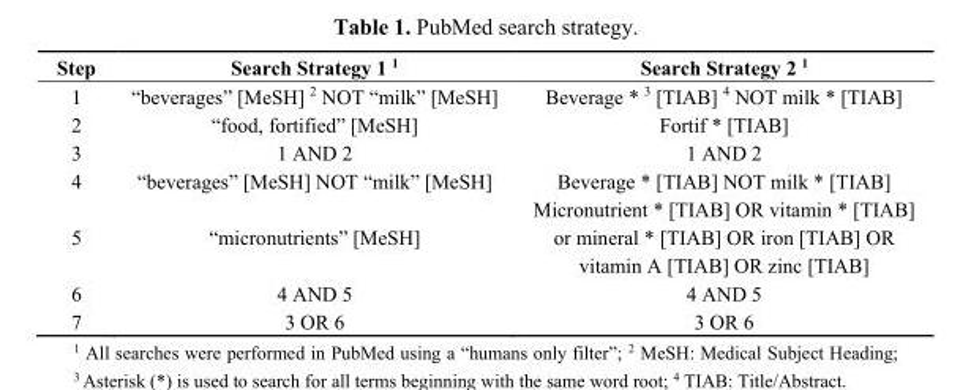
<table><thead><tr><td>Step</td><td>Search Strategy 1 <sup>1</sup></td><td>Search Strategy 2 <sup>1</sup></td></tr></thead><tbody><tr><td>1</td><td>“beverages” [MeSH] <sup>2</sup> NOT “milk” [MeSH]</td><td>Beverage * <sup>3</sup> [TIAB] <sup>4</sup> NOT milk * [TIAB]</td></tr><tr><td>2</td><td>“food, fortified” [MeSH]</td><td>Fortif * [TIAB]</td></tr><tr><td>3</td><td>1 AND 2</td><td>1 AND 2</td></tr><tr><td>4</td><td>“beverages” [MeSH] NOT “milk” [MeSH]</td><td>Beverage * [TIAB] NOT milk * [TIAB]</td></tr><tr><td>5</td><td>“micronutrients” [MeSH]</td><td>Micronutrient * [TIAB] OR vitamin * [TIAB] or mineral * [TIAB] OR iron [TIAB] OR vitamin A [TIAB] OR zinc [TIAB]</td></tr><tr><td>6</td><td>4 AND 5</td><td>4 AND 5</td></tr><tr><td>7</td><td>3 OR 6</td><td>3 OR 6</td></tr></tbody></table>